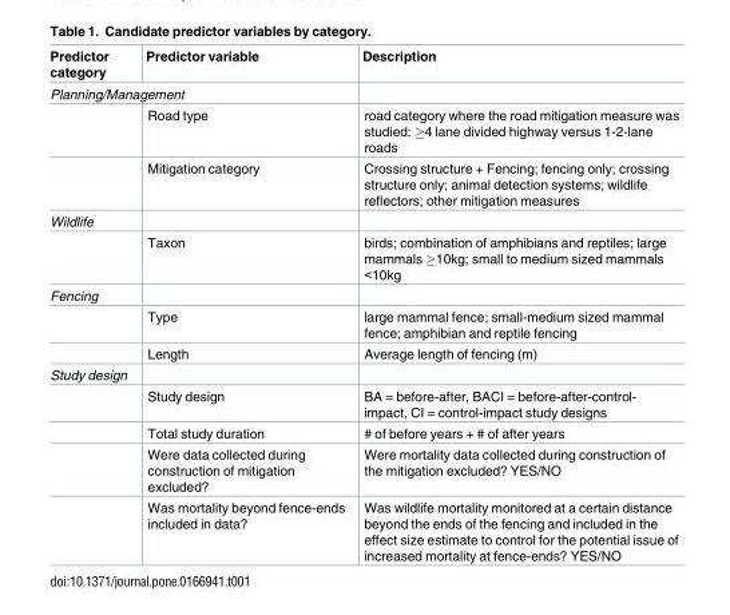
<table><thead><tr><td>Predictor category</td><td>Predictor variable</td><td>Description</td></tr></thead><tbody><tr><td colspan="3">Planning/Management</td></tr><tr><td></td><td>Road type</td><td>road category where the road mitigation measure was studied: ≥4 lane divided highway versus 1-2-lane roads</td></tr><tr><td></td><td>Mitigation category</td><td>Crossing structure + Fencing; fencing only; crossing structure only; animal detection systems; wildlife reflectors; other mitigation measures</td></tr><tr><td colspan="3">Wildlife</td></tr><tr><td></td><td>Taxon</td><td>birds; combination of amphibians and reptiles; large mammals ≥10kg; small to medium sized mammals &lt;10kg</td></tr><tr><td colspan="3">Fencing</td></tr><tr><td></td><td>Type</td><td>large mammal fence; small-medium sized mammal fence; amphibian and reptile fencing</td></tr><tr><td></td><td>Length</td><td>Average length of fencing (m)</td></tr><tr><td colspan="3">Study design</td></tr><tr><td></td><td>Study design</td><td>BA = before-after, BACI = before-after-control- impact, CI = control-impact study designs</td></tr><tr><td></td><td>Total study duration</td><td># of before years + # of after years</td></tr><tr><td></td><td>Were data collected during construction of mitigation excluded?</td><td>Were mortality data collected during construction of the mitigation excluded? YES/NO</td></tr><tr><td></td><td>Was mortality beyond fence-ends included in data?</td><td>Was wildlife mortality monitored at a certain distance beyond the ends of the fencing and included in the effect size estimate to control for the potential issue of increased mortality at fence-ends? YES/NO</td></tr></tbody></table>